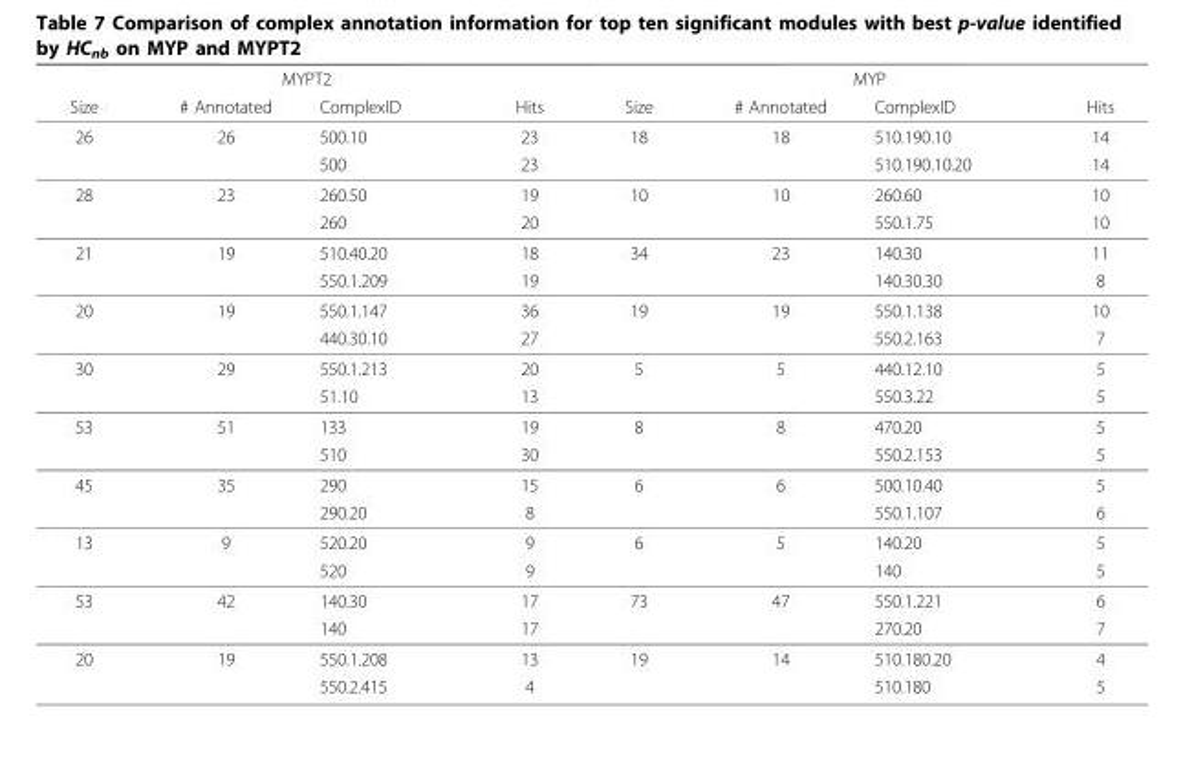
<table><thead><tr><td colspan="4">MYPT2</td><td colspan="4">MYP</td></tr><tr><td>Size</td><td># Annotated</td><td>ComplexID</td><td>Hits</td><td>Size</td><td># Annotated</td><td>ComplexID</td><td>Hits</td></tr></thead><tbody><tr><td rowspan="2">26</td><td rowspan="2">26</td><td>500.10</td><td>23</td><td rowspan="2">18</td><td rowspan="2">18</td><td>510.190.10</td><td>14</td></tr><tr><td>500</td><td>23</td><td>510.190.10.20</td><td>14</td></tr><tr><td rowspan="2">28</td><td rowspan="2">23</td><td>260.50</td><td>19</td><td rowspan="2">10</td><td rowspan="2">10</td><td>260.60</td><td>10</td></tr><tr><td>260</td><td>20</td><td>550.1.75</td><td>10</td></tr><tr><td rowspan="2">21</td><td rowspan="2">19</td><td>510.40.20</td><td>18</td><td rowspan="2">34</td><td rowspan="2">23</td><td>140.30</td><td>11</td></tr><tr><td>550.1.209</td><td>19</td><td>140.30.30</td><td>8</td></tr><tr><td rowspan="2">20</td><td rowspan="2">19</td><td>550.1.147</td><td>36</td><td rowspan="2">19</td><td rowspan="2">19</td><td>550.1.138</td><td>10</td></tr><tr><td>440.30.10</td><td>27</td><td>550.2.163</td><td>7</td></tr><tr><td rowspan="2">30</td><td rowspan="2">29</td><td>550.1.213</td><td>20</td><td rowspan="2">5</td><td rowspan="2">5</td><td>440.12.10</td><td>5</td></tr><tr><td>51.10</td><td>13</td><td>550.3.22</td><td>5</td></tr><tr><td rowspan="2">53</td><td rowspan="2">51</td><td>133</td><td>19</td><td rowspan="2">8</td><td rowspan="2">8</td><td>470.20</td><td>5</td></tr><tr><td>510</td><td>30</td><td>550.2.153</td><td>5</td></tr><tr><td rowspan="2">45</td><td rowspan="2">35</td><td>290</td><td>15</td><td rowspan="2">6</td><td rowspan="2">6</td><td>500.10.40</td><td>5</td></tr><tr><td>290.20</td><td>8</td><td>550.1.107</td><td>6</td></tr><tr><td rowspan="2">13</td><td rowspan="2">9</td><td>520.20</td><td>9</td><td rowspan="2">6</td><td rowspan="2">5</td><td>140.20</td><td>5</td></tr><tr><td>520</td><td>9</td><td>140</td><td>5</td></tr><tr><td rowspan="2">53</td><td rowspan="2">42</td><td>140.30</td><td>17</td><td rowspan="2">73</td><td rowspan="2">47</td><td>550.1.221</td><td>6</td></tr><tr><td>140</td><td>17</td><td>270.20</td><td>7</td></tr><tr><td rowspan="2">20</td><td rowspan="2">19</td><td>550.1.208</td><td>13</td><td rowspan="2">19</td><td rowspan="2">14</td><td>510.180.20</td><td>4</td></tr><tr><td>550.2.415</td><td>4</td><td>510.180</td><td>5</td></tr></tbody></table>